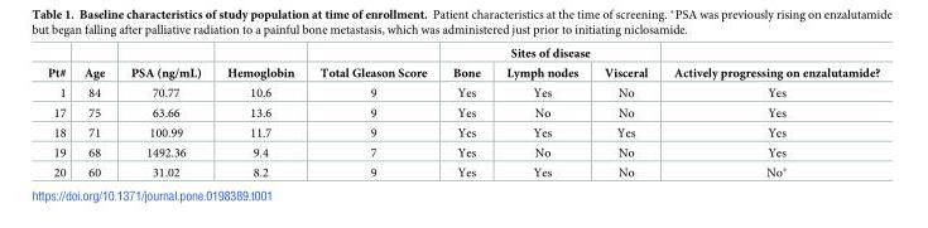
<table><thead><tr><td rowspan="2">Pt#</td><td rowspan="2">Age</td><td rowspan="2">PSA (ng/mL)</td><td rowspan="2">Hemoglobin</td><td rowspan="2">Total Gleason Score</td><td colspan="3">Sites of disease</td><td rowspan="2">Actively progressing on enzalutamide?</td></tr><tr><td>Bone</td><td>Lymph nodes</td><td>Visceral</td></tr></thead><tbody><tr><td>1</td><td>84</td><td>70.77</td><td>10.6</td><td>9</td><td>Yes</td><td>Yes</td><td>No</td><td>Yes</td></tr><tr><td>17</td><td>75</td><td>63.66</td><td>13.6</td><td>9</td><td>Yes</td><td>No</td><td>No</td><td>Yes</td></tr><tr><td>18</td><td>71</td><td>100.99</td><td>11.7</td><td>9</td><td>Yes</td><td>Yes</td><td>Yes</td><td>Yes</td></tr><tr><td>19</td><td>68</td><td>1492.36</td><td>9.4</td><td>7</td><td>Yes</td><td>No</td><td>No</td><td>Yes</td></tr><tr><td>20</td><td>60</td><td>31.02</td><td>8.2</td><td>9</td><td>Yes</td><td>Yes</td><td>No</td><td>No*</td></tr></tbody></table>